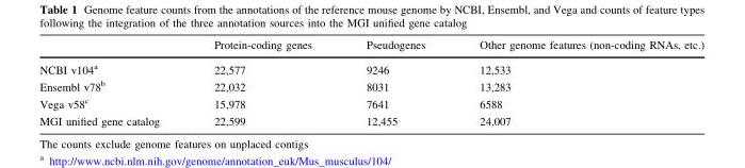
<table><thead><tr><td></td><td>Protein-coding genes</td><td>Pseudogenes</td><td>Other genome features (non-coding RNAs, etc.)</td></tr></thead><tbody><tr><td>NCBI v104<sup>a</sup></td><td>22,577</td><td>9246</td><td>12,533</td></tr><tr><td>Ensembl v78<sup>b</sup></td><td>22,032</td><td>8031</td><td>13,283</td></tr><tr><td>Vega v58<sup>c</sup></td><td>15,978</td><td>7641</td><td>6588</td></tr><tr><td>MGI unified gene catalog</td><td>22,599</td><td>12,455</td><td>24,007</td></tr></tbody></table>